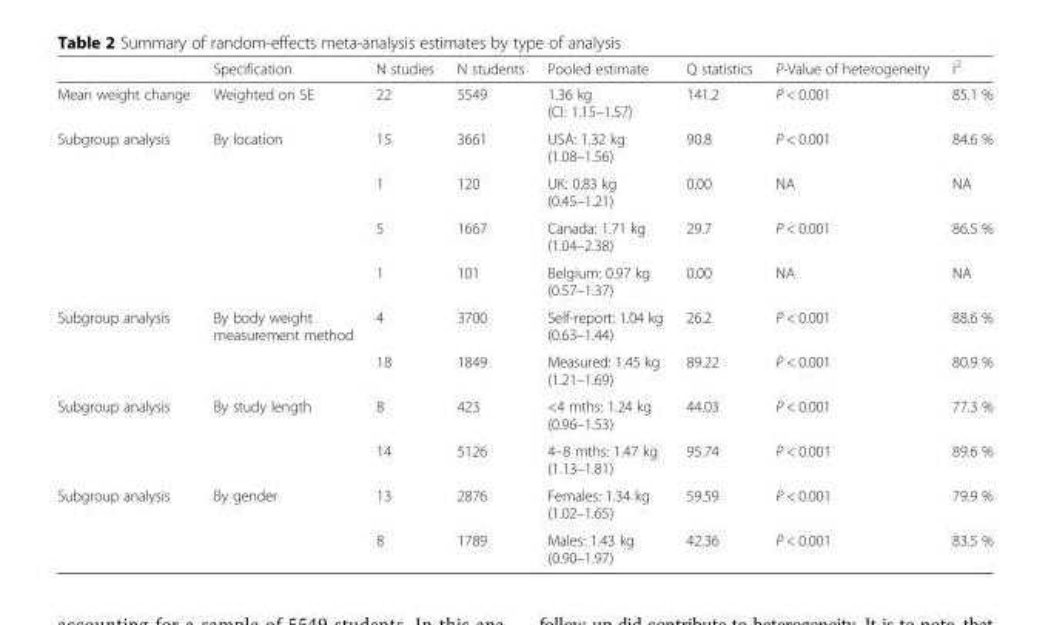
<table><thead><tr><td></td><td>Specification</td><td>N studies</td><td>N students</td><td>Pooled estimate</td><td>Q statistics</td><td>P-Value of heterogeneity</td><td>I<sup>2</sup></td></tr></thead><tbody><tr><td>Mean weight change</td><td>Weighted on SE</td><td>22</td><td>5549</td><td>1.36 kg (CI: 1.15–1.57)</td><td>141.2</td><td>P &lt; 0.001</td><td>85.1 %</td></tr><tr><td rowspan="4">Subgroup analysis</td><td>By location</td><td>15</td><td>3661</td><td>USA: 1.32 kg (1.08–1.56)</td><td>90.8</td><td>P &lt; 0.001</td><td>84.6 %</td></tr><tr><td></td><td>1</td><td>120</td><td>UK: 0.83 kg (0.45–1.21)</td><td>0.00</td><td>NA</td><td>NA</td></tr><tr><td></td><td>5</td><td>1667</td><td>Canada: 1.71 kg (1.04–2.38)</td><td>29.7</td><td>P &lt; 0.001</td><td>86.5 %</td></tr><tr><td></td><td>1</td><td>101</td><td>Belgium: 0.97 kg (0.57–1.37)</td><td>0.00</td><td>NA</td><td>NA</td></tr><tr><td rowspan="2">Subgroup analysis</td><td>By body weight measurement method</td><td>4</td><td>3700</td><td>Self-report: 1.04 kg (0.63–1.44)</td><td>26.2</td><td>P &lt; 0.001</td><td>88.6 %</td></tr><tr><td></td><td>18</td><td>1849</td><td>Measured: 1.45 kg (1.21–1.69)</td><td>89.22</td><td>P &lt; 0.001</td><td>80.9 %</td></tr><tr><td rowspan="2">Subgroup analysis</td><td>By study length</td><td>8</td><td>423</td><td>&lt;4 mths: 1.24 kg (0.96–1.53)</td><td>44.03</td><td>P &lt; 0.001</td><td>77.3 %</td></tr><tr><td></td><td>14</td><td>5126</td><td>4–8 mths: 1.47 kg (1.13–1.81)</td><td>95.74</td><td>P &lt; 0.001</td><td>89.6 %</td></tr><tr><td rowspan="2">Subgroup analysis</td><td>By gender</td><td>13</td><td>2876</td><td>Females: 1.34 kg (1.02–1.65)</td><td>59.59</td><td>P &lt; 0.001</td><td>79.9 %</td></tr><tr><td></td><td>8</td><td>1789</td><td>Males: 1.43 kg (0.90–1.97)</td><td>42.36</td><td>P &lt; 0.001</td><td>83.5 %</td></tr></tbody></table>